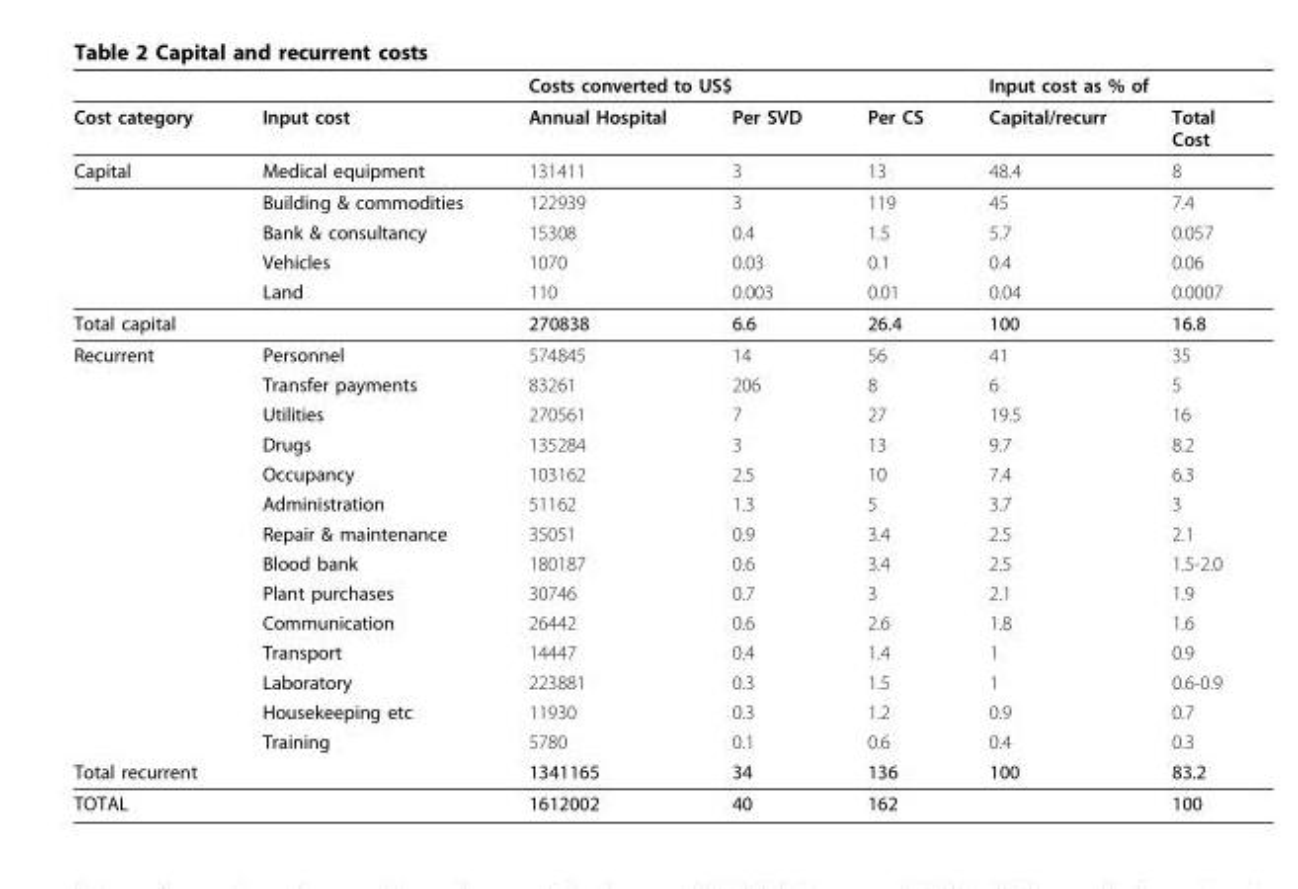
<table><thead><tr><td rowspan="2">Cost category</td><td rowspan="2">Input cost</td><td colspan="3">Costs converted to US$</td><td colspan="2">Input cost as % of</td></tr><tr><td>Annual Hospital</td><td>Per SVD</td><td>Per CS</td><td>Capital/recurr</td><td>Total Cost</td></tr></thead><tbody><tr><td rowspan="5">Capital</td><td>Medical equipment</td><td>131411</td><td>3</td><td>13</td><td>48.4</td><td>8</td></tr><tr><td>Building &amp; commodities</td><td>122939</td><td>3</td><td>119</td><td>45</td><td>7.4</td></tr><tr><td>Bank &amp; consultancy</td><td>15308</td><td>0.4</td><td>1.5</td><td>5.7</td><td>0.057</td></tr><tr><td>Vehicles</td><td>1070</td><td>0.03</td><td>0.1</td><td>0.4</td><td>0.06</td></tr><tr><td>Land</td><td>110</td><td>0.003</td><td>0.01</td><td>0.04</td><td>0.0007</td></tr><tr><td>Total capital</td><td></td><td>270838</td><td>6.6</td><td>26.4</td><td>100</td><td>16.8</td></tr><tr><td rowspan="14">Recurrent</td><td>Personnel</td><td>574845</td><td>14</td><td>56</td><td>41</td><td>35</td></tr><tr><td>Transfer payments</td><td>83261</td><td>206</td><td>8</td><td>6</td><td>5</td></tr><tr><td>Utilities</td><td>270561</td><td>7</td><td>27</td><td>19.5</td><td>16</td></tr><tr><td>Drugs</td><td>135284</td><td>3</td><td>13</td><td>9.7</td><td>8.2</td></tr><tr><td>Occupancy</td><td>103162</td><td>2.5</td><td>10</td><td>7.4</td><td>6.3</td></tr><tr><td>Administration</td><td>51162</td><td>1.3</td><td>5</td><td>3.7</td><td>3</td></tr><tr><td>Repair &amp; maintenance</td><td>35051</td><td>0.9</td><td>3.4</td><td>2.5</td><td>2.1</td></tr><tr><td>Blood bank</td><td>180187</td><td>0.6</td><td>3.4</td><td>2.5</td><td>1.5-2.0</td></tr><tr><td>Plant purchases</td><td>30746</td><td>0.7</td><td>3</td><td>2.1</td><td>1.9</td></tr><tr><td>Communication</td><td>26442</td><td>0.6</td><td>2.6</td><td>1.8</td><td>1.6</td></tr><tr><td>Transport</td><td>14447</td><td>0.4</td><td>1.4</td><td>1</td><td>0.9</td></tr><tr><td>Laboratory</td><td>223881</td><td>0.3</td><td>1.5</td><td>1</td><td>0.6-0.9</td></tr><tr><td>Housekeeping etc</td><td>11930</td><td>0.3</td><td>1.2</td><td>0.9</td><td>0.7</td></tr><tr><td>Training</td><td>5780</td><td>0.1</td><td>0.6</td><td>0.4</td><td>0.3</td></tr><tr><td>Total recurrent</td><td></td><td>1341165</td><td>34</td><td>136</td><td>100</td><td>83.2</td></tr><tr><td>TOTAL</td><td></td><td>1612002</td><td>40</td><td>162</td><td></td><td>100</td></tr></tbody></table>